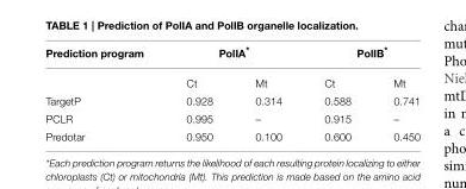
<table><thead><tr><td rowspan="2">Prediction program</td><td colspan="2">PolIA*</td><td colspan="2">PolIB*</td></tr><tr><td>Ct</td><td>Mt</td><td>Ct</td><td>Mt</td></tr></thead><tbody><tr><td>TargetP</td><td>0.928</td><td>0.314</td><td>0.588</td><td>0.741</td></tr><tr><td>PCLR</td><td>0.995</td><td>–</td><td>0.915</td><td>–</td></tr><tr><td>Predotar</td><td>0.950</td><td>0.100</td><td>0.600</td><td>0.450</td></tr></tbody></table>